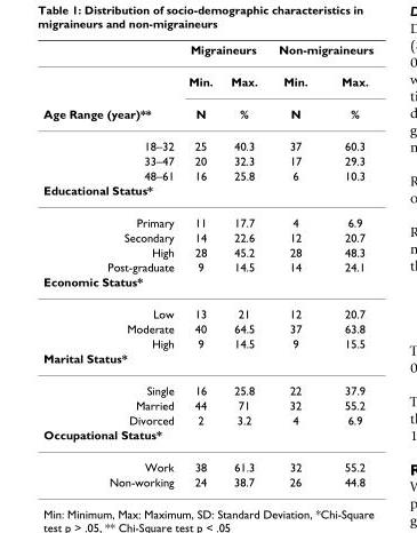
<table><thead><tr><td rowspan="2"></td><td colspan="2">Migraineurs</td><td colspan="2">Non-migraineurs</td></tr><tr><td>Min.</td><td>Max.</td><td>Min.</td><td>Max.</td></tr></thead><tbody><tr><td>Age Range (year)**</td><td>N</td><td>%</td><td>N</td><td>%</td></tr><tr><td>18–32</td><td>25</td><td>40.3</td><td>37</td><td>60.3</td></tr><tr><td>33–47</td><td>20</td><td>32.3</td><td>17</td><td>29.3</td></tr><tr><td>48–61</td><td>16</td><td>25.8</td><td>6</td><td>10.3</td></tr><tr><td colspan="5">Educational Status*</td></tr><tr><td>Primary</td><td>11</td><td>17.7</td><td>4</td><td>6.9</td></tr><tr><td>Secondary</td><td>14</td><td>22.6</td><td>12</td><td>20.7</td></tr><tr><td>High</td><td>28</td><td>45.2</td><td>28</td><td>48.3</td></tr><tr><td>Post-graduate</td><td>9</td><td>14.5</td><td>14</td><td>24.1</td></tr><tr><td colspan="5">Economic Status*</td></tr><tr><td>Low</td><td>13</td><td>21</td><td>12</td><td>20.7</td></tr><tr><td>Moderate</td><td>40</td><td>64.5</td><td>37</td><td>63.8</td></tr><tr><td>High</td><td>9</td><td>14.5</td><td>9</td><td>15.5</td></tr><tr><td colspan="5">Marital Status*</td></tr><tr><td>Single</td><td>16</td><td>25.8</td><td>22</td><td>37.9</td></tr><tr><td>Married</td><td>44</td><td>71</td><td>32</td><td>55.2</td></tr><tr><td>Divorced</td><td>2</td><td>3.2</td><td>4</td><td>6.9</td></tr><tr><td colspan="5">Occupational Status*</td></tr><tr><td>Work</td><td>38</td><td>61.3</td><td>32</td><td>55.2</td></tr><tr><td>Non-working</td><td>24</td><td>38.7</td><td>26</td><td>44.8</td></tr></tbody></table>